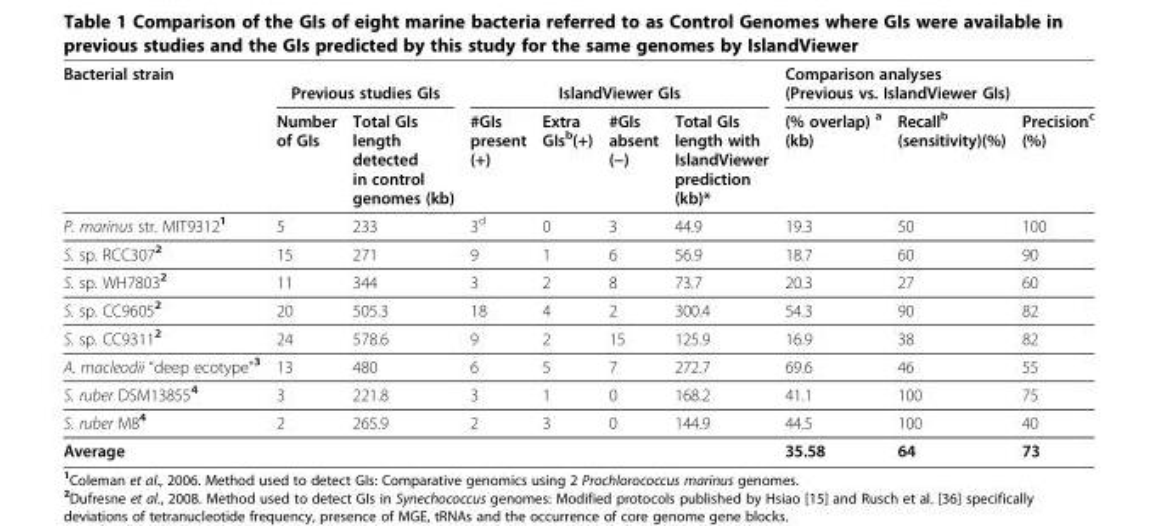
<table><thead><tr><td rowspan="2">Bacterial strain</td><td colspan="2">Previous studies GIs</td><td colspan="4">IslandViewer GIs</td><td colspan="3">Comparison analyses (Previous vs. IslandViewer GIs)</td></tr><tr><td>Number of GIs</td><td>Total GIs length detected in control genomes (kb)</td><td>#GIs present (+)</td><td>Extra GIs<sup>b</sup>(+)</td><td>#GIs absent (−)</td><td>Total GIs length with IslandViewer prediction (kb)*</td><td>(% overlap) <sup>a</sup> (kb)</td><td>Recall<sup>b</sup> (sensitivity)(%)</td><td>Precision<sup>c</sup> (%)</td></tr></thead><tbody><tr><td>P. marinus str. MIT9312<sup>1</sup></td><td>5</td><td>233</td><td>3<sup>d</sup></td><td>0</td><td>3</td><td>44.9</td><td>19.3</td><td>50</td><td>100</td></tr><tr><td>S. sp. RCC307<sup>2</sup></td><td>15</td><td>271</td><td>9</td><td>1</td><td>6</td><td>56.9</td><td>18.7</td><td>60</td><td>90</td></tr><tr><td>S. sp. WH7803<sup>2</sup></td><td>11</td><td>344</td><td>3</td><td>2</td><td>8</td><td>73.7</td><td>20.3</td><td>27</td><td>60</td></tr><tr><td>S. sp. CC9605<sup>2</sup></td><td>20</td><td>505.3</td><td>18</td><td>4</td><td>2</td><td>300.4</td><td>54.3</td><td>90</td><td>82</td></tr><tr><td>S. sp. CC9311<sup>2</sup></td><td>24</td><td>578.6</td><td>9</td><td>2</td><td>15</td><td>125.9</td><td>16.9</td><td>38</td><td>82</td></tr><tr><td>A. macleodii “deep ecotype”<sup>3</sup></td><td>13</td><td>480</td><td>6</td><td>5</td><td>7</td><td>272.7</td><td>69.6</td><td>46</td><td>55</td></tr><tr><td>S. ruber DSM13855<sup>4</sup></td><td>3</td><td>221.8</td><td>3</td><td>1</td><td>0</td><td>168.2</td><td>41.1</td><td>100</td><td>75</td></tr><tr><td>S. ruber M8<sup>4</sup></td><td>2</td><td>265.9</td><td>2</td><td>3</td><td>0</td><td>144.9</td><td>44.5</td><td>100</td><td>40</td></tr><tr><td>Average</td><td></td><td></td><td></td><td></td><td></td><td></td><td>35.58</td><td>64</td><td>73</td></tr></tbody></table>